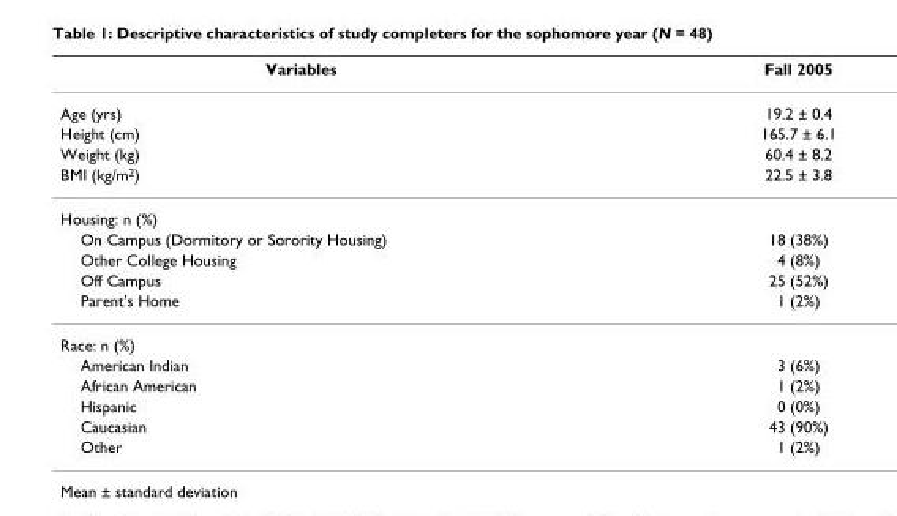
<table><thead><tr><td>Variables</td><td>Fall 2005</td></tr></thead><tbody><tr><td>Age (yrs)</td><td>19.2 ± 0.4</td></tr><tr><td>Height (cm)</td><td>165.7 ± 6.1</td></tr><tr><td>Weight (kg)</td><td>60.4 ± 8.2</td></tr><tr><td>BMI (kg/m<sup>2</sup>)</td><td>22.5 ± 3.8</td></tr><tr><td colspan="2">Housing: n (%)</td></tr><tr><td>On Campus (Dormitory or Sorority Housing)</td><td>18 (38%)</td></tr><tr><td>Other College Housing</td><td>4 (8%)</td></tr><tr><td>Off Campus</td><td>25 (52%)</td></tr><tr><td>Parent&#x27;s Home</td><td>1 (2%)</td></tr><tr><td colspan="2">Race: n (%)</td></tr><tr><td>American Indian</td><td>3 (6%)</td></tr><tr><td>African American</td><td>1 (2%)</td></tr><tr><td>Hispanic</td><td>0 (0%)</td></tr><tr><td>Caucasian</td><td>43 (90%)</td></tr><tr><td>Other</td><td>1 (2%)</td></tr></tbody></table>